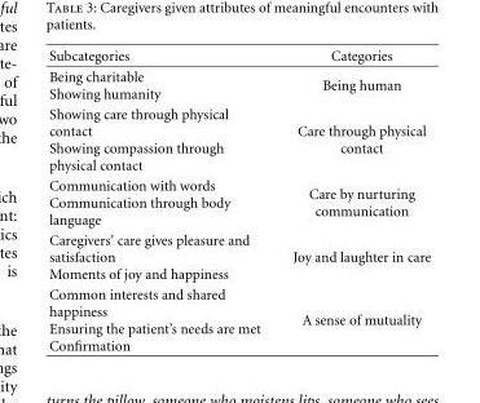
<table><thead><tr><td>Subcategories</td><td>Categories</td></tr></thead><tbody><tr><td>Being charitable Showing humanity</td><td>Being human</td></tr><tr><td>Showing care through physical contact Showing compassion through physical contact</td><td>Care through physical contact</td></tr><tr><td>Communication with words Communication through body language</td><td>Care by nurturing communication</td></tr><tr><td>Caregivers’ care gives pleasure and satisfaction Moments of joy and happiness</td><td>Joy and laughter in care</td></tr><tr><td>Common interests and shared happiness Ensuring the patient’s needs are met Confirmation</td><td>A sense of mutuality</td></tr></tbody></table>